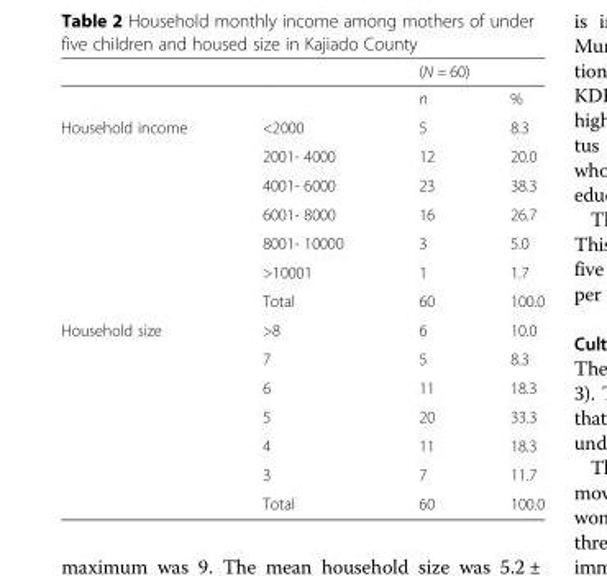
<table><thead><tr><td rowspan="2"></td><td rowspan="2"></td><td colspan="2">(N = 60)</td></tr><tr><td>n</td><td>%</td></tr></thead><tbody><tr><td rowspan="7">Household income</td><td>&lt;2000</td><td>5</td><td>8.3</td></tr><tr><td>2001- 4000</td><td>12</td><td>20.0</td></tr><tr><td>4001- 6000</td><td>23</td><td>38.3</td></tr><tr><td>6001- 8000</td><td>16</td><td>26.7</td></tr><tr><td>8001- 10000</td><td>3</td><td>5.0</td></tr><tr><td>&gt;10001</td><td>1</td><td>1.7</td></tr><tr><td>Total</td><td>60</td><td>100.0</td></tr><tr><td rowspan="7">Household size</td><td>&gt;8</td><td>6</td><td>10.0</td></tr><tr><td>7</td><td>5</td><td>8.3</td></tr><tr><td>6</td><td>11</td><td>18.3</td></tr><tr><td>5</td><td>20</td><td>33.3</td></tr><tr><td>4</td><td>11</td><td>18.3</td></tr><tr><td>3</td><td>7</td><td>11.7</td></tr><tr><td>Total</td><td>60</td><td>100.0</td></tr></tbody></table>